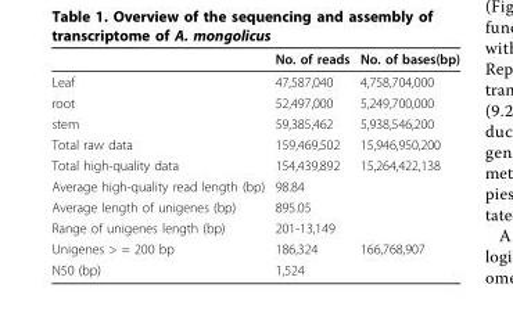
<table><thead><tr><td></td><td>No. of reads</td><td>No. of bases(bp)</td></tr></thead><tbody><tr><td>Leaf</td><td>47,587,040</td><td>4,758,704,000</td></tr><tr><td>root</td><td>52,497,000</td><td>5,249,700,000</td></tr><tr><td>stem</td><td>59,385,462</td><td>5,938,546,200</td></tr><tr><td>Total raw data</td><td>159,469,502</td><td>15,946,950,200</td></tr><tr><td>Total high-quality data</td><td>154,439,892</td><td>15,264,422,138</td></tr><tr><td>Average high-quality read length (bp)</td><td>98.84</td><td></td></tr><tr><td>Average length of unigenes (bp)</td><td>895.05</td><td></td></tr><tr><td>Range of unigenes length (bp)</td><td>201-13,149</td><td></td></tr><tr><td>Unigenes &gt; = 200 bp</td><td>186,324</td><td>166,768,907</td></tr><tr><td>N50 (bp)</td><td>1,524</td><td></td></tr></tbody></table>